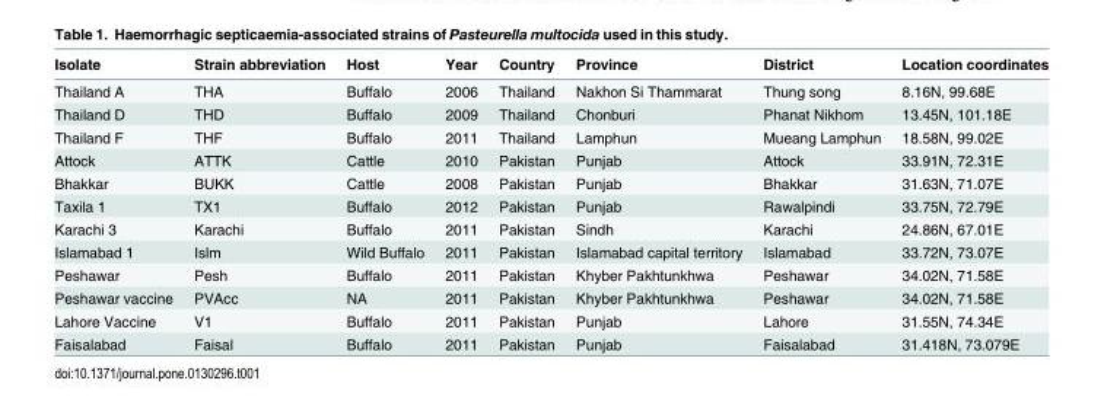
<table><thead><tr><td>Isolate</td><td>Strain abbreviation</td><td>Host</td><td>Year</td><td>Country</td><td>Province</td><td>District</td><td>Location coordinates</td></tr></thead><tbody><tr><td>Thailand A</td><td>THA</td><td>Buffalo</td><td>2006</td><td>Thailand</td><td>Nakhon Si Thammarat</td><td>Thung song</td><td>8.16N, 99.68E</td></tr><tr><td>Thailand D</td><td>THD</td><td>Buffalo</td><td>2009</td><td>Thailand</td><td>Chonburi</td><td>Phanat Nikhom</td><td>13.45N, 101.18E</td></tr><tr><td>Thailand F</td><td>THF</td><td>Buffalo</td><td>2011</td><td>Thailand</td><td>Lamphun</td><td>Mueang Lamphun</td><td>18.58N, 99.02E</td></tr><tr><td>Attock</td><td>ATTK</td><td>Cattle</td><td>2010</td><td>Pakistan</td><td>Punjab</td><td>Attock</td><td>33.91N, 72.31E</td></tr><tr><td>Bhakkar</td><td>BUKK</td><td>Cattle</td><td>2008</td><td>Pakistan</td><td>Punjab</td><td>Bhakkar</td><td>31.63N, 71.07E</td></tr><tr><td>Taxila 1</td><td>TX1</td><td>Buffalo</td><td>2012</td><td>Pakistan</td><td>Punjab</td><td>Rawalpindi</td><td>33.75N, 72.79E</td></tr><tr><td>Karachi 3</td><td>Karachi</td><td>Buffalo</td><td>2011</td><td>Pakistan</td><td>Sindh</td><td>Karachi</td><td>24.86N, 67.01E</td></tr><tr><td>Islamabad 1</td><td>Islm</td><td>Wild Buffalo</td><td>2011</td><td>Pakistan</td><td>Islamabad capital territory</td><td>Islamabad</td><td>33.72N, 73.07E</td></tr><tr><td>Peshawar</td><td>Pesh</td><td>Buffalo</td><td>2011</td><td>Pakistan</td><td>Khyber Pakhtunkhwa</td><td>Peshawar</td><td>34.02N, 71.58E</td></tr><tr><td>Peshawar vaccine</td><td>PVAcc</td><td>NA</td><td>2011</td><td>Pakistan</td><td>Khyber Pakhtunkhwa</td><td>Peshawar</td><td>34.02N, 71.58E</td></tr><tr><td>Lahore Vaccine</td><td>V1</td><td>Buffalo</td><td>2011</td><td>Pakistan</td><td>Punjab</td><td>Lahore</td><td>31.55N, 74.34E</td></tr><tr><td>Faisalabad</td><td>Faisal</td><td>Buffalo</td><td>2011</td><td>Pakistan</td><td>Punjab</td><td>Faisalabad</td><td>31.418N, 73.079E</td></tr></tbody></table>